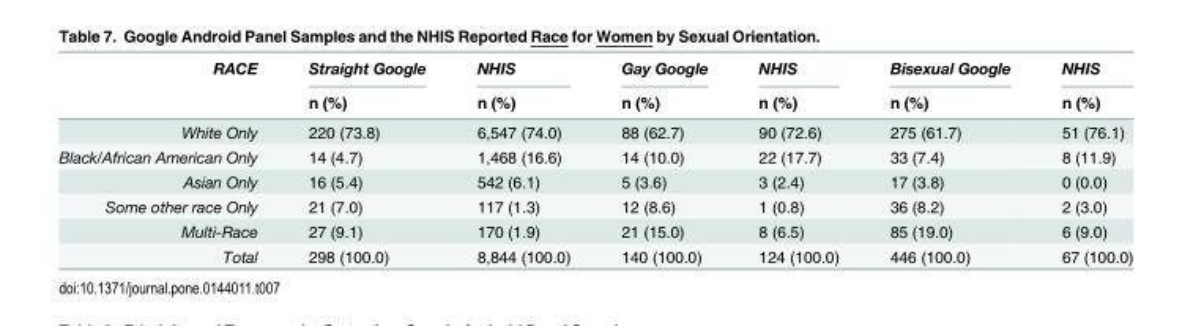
<table><thead><tr><td rowspan="2">RACE</td><td rowspan="2">Straight Google n (%)</td><td rowspan="2">NHIS n (%)</td><td rowspan="2">Gay Google n (%)</td><td rowspan="2">NHIS n (%)</td><td rowspan="2">Bisexual Google n (%)</td><td rowspan="2">NHIS n (%)</td></tr><tr></tr></thead><tbody><tr><td>White Only</td><td>220 (73.8)</td><td>6,547 (74.0)</td><td>88 (62.7)</td><td>90 (72.6)</td><td>275 (61.7)</td><td>51 (76.1)</td></tr><tr><td>Black/African American Only</td><td>14 (4.7)</td><td>1,468 (16.6)</td><td>14 (10.0)</td><td>22 (17.7)</td><td>33 (7.4)</td><td>8 (11.9)</td></tr><tr><td>Asian Only</td><td>16 (5.4)</td><td>542 (6.1)</td><td>5 (3.6)</td><td>3 (2.4)</td><td>17 (3.8)</td><td>0 (0.0)</td></tr><tr><td>Some other race Only</td><td>21 (7.0)</td><td>117 (1.3)</td><td>12 (8.6)</td><td>1 (0.8)</td><td>36 (8.2)</td><td>2 (3.0)</td></tr><tr><td>Multi-Race</td><td>27 (9.1)</td><td>170 (1.9)</td><td>21 (15.0)</td><td>8 (6.5)</td><td>85 (19.0)</td><td>6 (9.0)</td></tr><tr><td>Total</td><td>298 (100.0)</td><td>8,844 (100.0)</td><td>140 (100.0)</td><td>124 (100.0)</td><td>446 (100.0)</td><td>67 (100.0)</td></tr></tbody></table>